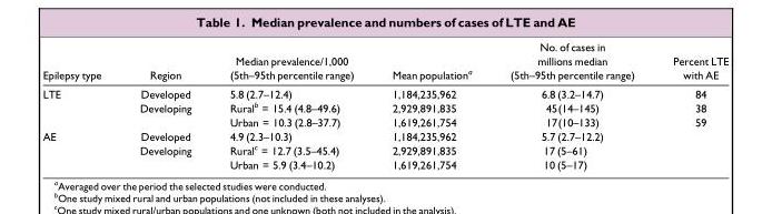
<table><thead><tr><td>Epilepsy type</td><td>Region</td><td>Median prevalence/1,000 (5th–95th percentile range)</td><td>Mean populationa</td><td>No. of cases in millions median (5th–95th percentile range)</td><td>Percent LTE with AE</td></tr></thead><tbody><tr><td rowspan="2">LTE</td><td>Developed</td><td>5.8 (2.7–12.4)</td><td>1,184,235,962</td><td>6.8 (3.2–14.7)</td><td>84</td></tr><tr><td>Developing</td><td>Ruralb = 15.4 (4.8–49.6) Urban = 10.3 (2.8–37.7)</td><td>2,929,891,835 1,619,261,754</td><td>45(14–145) 17(10–133)</td><td>38 59</td></tr><tr><td rowspan="2">AE</td><td>Developed</td><td>4.9 (2.3–10.3)</td><td>1,184,235,962</td><td>5.7 (2.7–12.2)</td><td></td></tr><tr><td>Developing</td><td>Ruralc = 12.7 (3.5–45.4) Urban = 5.9 (3.4–10.2)</td><td>2,929,891,835 1,619,261,754</td><td>17 (5–61) 10 (5–17)</td><td></td></tr></tbody></table>